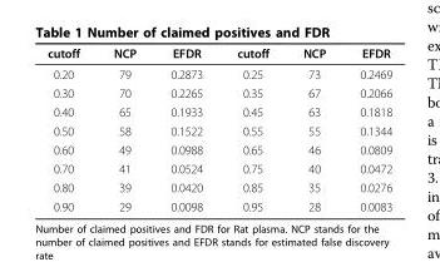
<table><thead><tr><td>cutoff</td><td>NCP</td><td>EFDR</td><td>cutoff</td><td>NCP</td><td>EFDR</td></tr></thead><tbody><tr><td>0.20</td><td>79</td><td>0.2873</td><td>0.25</td><td>73</td><td>0.2469</td></tr><tr><td>0.30</td><td>70</td><td>0.2265</td><td>0.35</td><td>67</td><td>0.2066</td></tr><tr><td>0.40</td><td>65</td><td>0.1933</td><td>0.45</td><td>63</td><td>0.1818</td></tr><tr><td>0.50</td><td>58</td><td>0.1522</td><td>0.55</td><td>55</td><td>0.1344</td></tr><tr><td>0.60</td><td>49</td><td>0.0988</td><td>0.65</td><td>46</td><td>0.0809</td></tr><tr><td>0.70</td><td>41</td><td>0.0524</td><td>0.75</td><td>40</td><td>0.0472</td></tr><tr><td>0.80</td><td>39</td><td>0.0420</td><td>0.85</td><td>35</td><td>0.0276</td></tr><tr><td>0.90</td><td>29</td><td>0.0098</td><td>0.95</td><td>28</td><td>0.0083</td></tr></tbody></table>